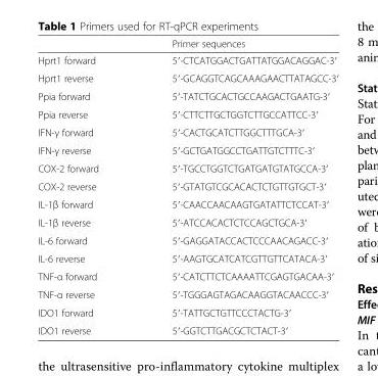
<table><thead><tr><td></td><td>Primer sequences</td></tr></thead><tbody><tr><td>Hprt1 forward</td><td>5′-CTCATGGACTGATTATGGACAGGAC-3′</td></tr><tr><td>Hprt1 reverse</td><td>5′-GCAGGTCAGCAAAGAACTTATAGCC-3′</td></tr><tr><td>Ppia forward</td><td>5′-TATCTGCACTGCCAAGACTGAATG-3′</td></tr><tr><td>Ppia reverse</td><td>5′-CTTCTTGCTGGTCTTGCCATTCC-3′</td></tr><tr><td>IFN-γ forward</td><td>5′-CACTGCATCTTGGCTTTGCA-3′</td></tr><tr><td>IFN-γ reverse</td><td>5′-GCTGATGGCCTGATTGTCTTTC-3′</td></tr><tr><td>COX-2 forward</td><td>5′-TGCCTGGTCTGATGATGTATGCCA-3′</td></tr><tr><td>COX-2 reverse</td><td>5′-GTATGTCGCACACTCTGTTGTGCT-3′</td></tr><tr><td>IL-1β forward</td><td>5′-CAACCAACAAGTGATATTCTCCAT-3′</td></tr><tr><td>IL-1β reverse</td><td>5′-ATCCACACTCTCCAGCTGCA-3′</td></tr><tr><td>IL-6 forward</td><td>5′-GAGGATACCACTCCCAACAGACC-3′</td></tr><tr><td>IL-6 reverse</td><td>5′-AAGTGCATCATCGTTGTTCATACA-3′</td></tr><tr><td>TNF-α forward</td><td>5′-CATCTTCTCAAAATTCGAGTGACAA-3′</td></tr><tr><td>TNF-α reverse</td><td>5′-TGGGAGTAGACAAGGTACAACCC-3′</td></tr><tr><td>IDO1 forward</td><td>5′-TATTGCTGTTCCCTACTG-3′</td></tr><tr><td>IDO1 reverse</td><td>5′-GGTCTTGACGCTCTACT-3′</td></tr></tbody></table>